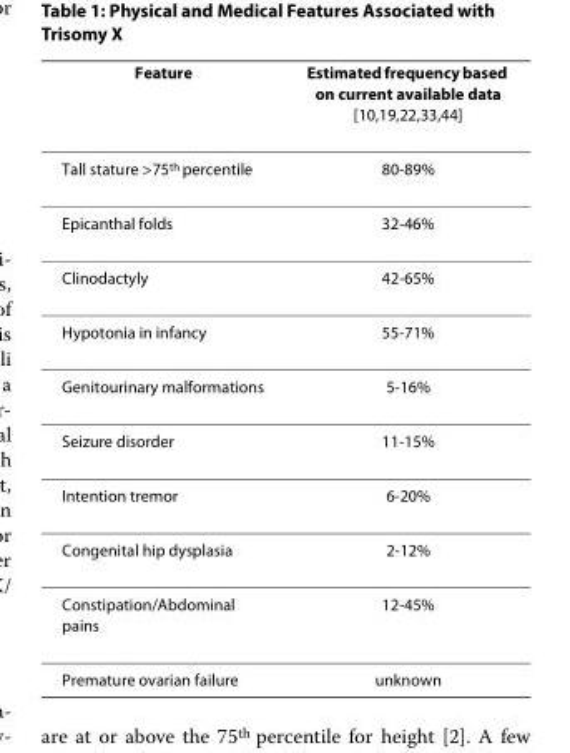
<table><thead><tr><td>Feature</td><td>Estimated frequency based on current available data [10,19,22,33,44]</td></tr></thead><tbody><tr><td>Tall stature &gt;75<sup>th</sup> percentile</td><td>80-89%</td></tr><tr><td>Epicanthal folds</td><td>32-46%</td></tr><tr><td>Clinodactyly</td><td>42-65%</td></tr><tr><td>Hypotonia in infancy</td><td>55-71%</td></tr><tr><td>Genitourinary malformations</td><td>5-16%</td></tr><tr><td>Seizure disorder</td><td>11-15%</td></tr><tr><td>Intention tremor</td><td>6-20%</td></tr><tr><td>Congenital hip dysplasia</td><td>2-12%</td></tr><tr><td>Constipation/Abdominal pains</td><td>12-45%</td></tr><tr><td>Premature ovarian failure</td><td>unknown</td></tr></tbody></table>